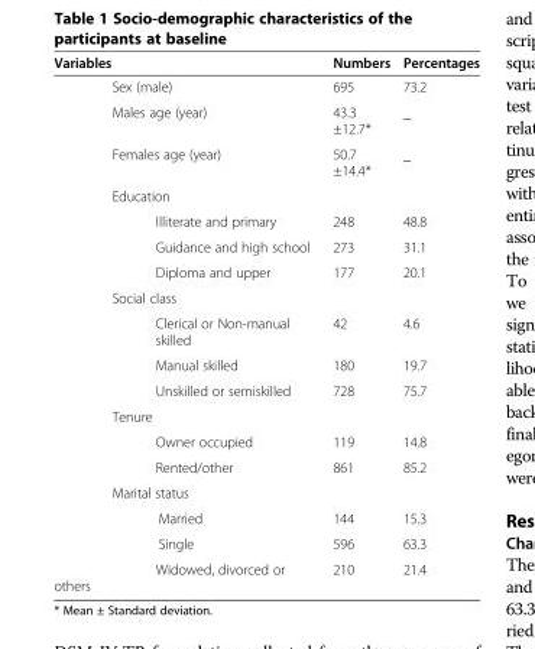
<table><thead><tr><td>Variables</td><td>Numbers</td><td>Percentages</td></tr></thead><tbody><tr><td>Sex (male)</td><td>695</td><td>73.2</td></tr><tr><td>Males age (year)</td><td>43.3 ±12.7*</td><td>_</td></tr><tr><td>Females age (year)</td><td>50.7 ±14.4*</td><td>_</td></tr><tr><td colspan="3">Education</td></tr><tr><td>Illiterate and primary</td><td>248</td><td>48.8</td></tr><tr><td>Guidance and high school</td><td>273</td><td>31.1</td></tr><tr><td>Diploma and upper</td><td>177</td><td>20.1</td></tr><tr><td colspan="3">Social class</td></tr><tr><td>Clerical or Non-manual skilled</td><td>42</td><td>4.6</td></tr><tr><td>Manual skilled</td><td>180</td><td>19.7</td></tr><tr><td>Unskilled or semiskilled</td><td>728</td><td>75.7</td></tr><tr><td colspan="3">Tenure</td></tr><tr><td>Owner occupied</td><td>119</td><td>14.8</td></tr><tr><td>Rented/other</td><td>861</td><td>85.2</td></tr><tr><td colspan="3">Marital status</td></tr><tr><td>Married</td><td>144</td><td>15.3</td></tr><tr><td>Single</td><td>596</td><td>63.3</td></tr><tr><td>Widowed, divorced or others</td><td>210</td><td>21.4</td></tr></tbody></table>